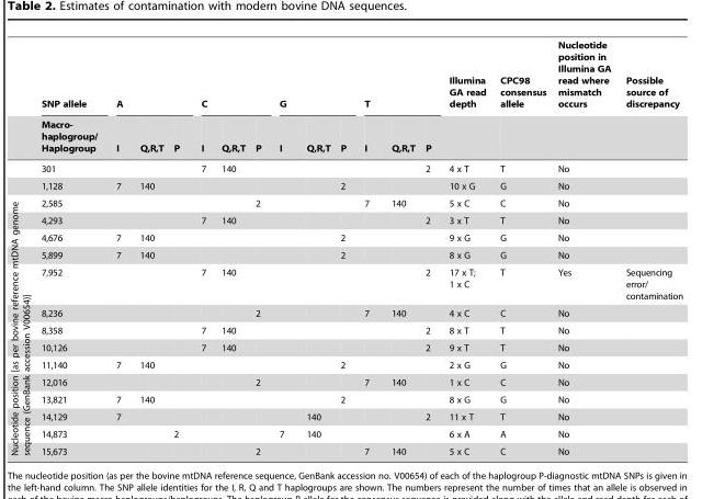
<table><thead><tr><td rowspan="2">SNP allele Macro- haplogroup/ Haplogroup</td><td colspan="3">A</td><td colspan="3">C</td><td colspan="3">G</td><td colspan="3">T</td><td rowspan="2">Illumina GA read depth</td><td rowspan="2">CPC98 consensus allele</td><td rowspan="2">Nucleotide position in Illumina GA read where mismatch occurs</td><td rowspan="2">Possible source of discrepancy</td></tr><tr><td>I</td><td>Q,R,T</td><td>P</td><td>I</td><td>Q,R,T</td><td>P</td><td>I</td><td>Q,R,T</td><td>P</td><td>I</td><td>Q,R,T</td><td>P</td></tr></thead><tbody><tr><td>301</td><td></td><td></td><td></td><td>7</td><td>140</td><td></td><td></td><td></td><td></td><td></td><td></td><td>2</td><td>4 x T</td><td>T</td><td>No</td><td></td></tr><tr><td>1,128</td><td>7</td><td>140</td><td></td><td></td><td></td><td></td><td></td><td></td><td>2</td><td></td><td></td><td></td><td>10 x G</td><td>G</td><td>No</td><td></td></tr><tr><td>2,585</td><td></td><td></td><td></td><td></td><td></td><td>2</td><td></td><td></td><td></td><td>7</td><td>140</td><td></td><td>5 x C</td><td>C</td><td>No</td><td></td></tr><tr><td>4,293</td><td></td><td></td><td></td><td>7</td><td>140</td><td></td><td></td><td></td><td></td><td></td><td></td><td>2</td><td>3 x T</td><td>T</td><td>No</td><td></td></tr><tr><td>4,676</td><td>7</td><td>140</td><td></td><td></td><td></td><td></td><td></td><td></td><td>2</td><td></td><td></td><td></td><td>9 x G</td><td>G</td><td>No</td><td></td></tr><tr><td>5,899</td><td>7</td><td>140</td><td></td><td></td><td></td><td></td><td></td><td></td><td>2</td><td></td><td></td><td></td><td>8 x G</td><td>G</td><td>No</td><td></td></tr><tr><td>7,952</td><td></td><td></td><td></td><td>7</td><td>140</td><td></td><td></td><td></td><td></td><td></td><td></td><td>2</td><td>17 x T; 1 x C</td><td>T</td><td>Yes</td><td>Sequencing error/ contamination</td></tr><tr><td>8,236</td><td></td><td></td><td></td><td></td><td></td><td>2</td><td></td><td></td><td></td><td>7</td><td>140</td><td></td><td>4 x C</td><td>C</td><td>No</td><td></td></tr><tr><td>8,358</td><td></td><td></td><td></td><td>7</td><td>140</td><td></td><td></td><td></td><td></td><td></td><td></td><td>2</td><td>8 x T</td><td>T</td><td>No</td><td></td></tr><tr><td>10,126</td><td></td><td></td><td></td><td>7</td><td>140</td><td></td><td></td><td></td><td></td><td></td><td></td><td>2</td><td>9 x T</td><td>T</td><td>No</td><td></td></tr><tr><td>11,140</td><td>7</td><td>140</td><td></td><td></td><td></td><td></td><td></td><td></td><td>2</td><td></td><td></td><td></td><td>2 x G</td><td>G</td><td>No</td><td></td></tr><tr><td>12,016</td><td></td><td></td><td></td><td></td><td></td><td>2</td><td></td><td></td><td></td><td>7</td><td>140</td><td></td><td>1 x C</td><td>C</td><td>No</td><td></td></tr><tr><td>13,821</td><td>7</td><td>140</td><td></td><td></td><td></td><td></td><td></td><td></td><td>2</td><td></td><td></td><td></td><td>8 x G</td><td>G</td><td>No</td><td></td></tr><tr><td>14,129</td><td>7</td><td></td><td></td><td></td><td></td><td></td><td></td><td>140</td><td></td><td></td><td></td><td>2</td><td>11 x T</td><td>T</td><td>No</td><td></td></tr><tr><td>14,873</td><td></td><td></td><td>2</td><td></td><td></td><td></td><td>7</td><td>140</td><td></td><td></td><td></td><td></td><td>6 x A</td><td>A</td><td>No</td><td></td></tr><tr><td>15,673</td><td></td><td></td><td></td><td></td><td></td><td>2</td><td></td><td></td><td></td><td>7</td><td>140</td><td></td><td>5 x C</td><td>C</td><td>No</td><td></td></tr></tbody></table>